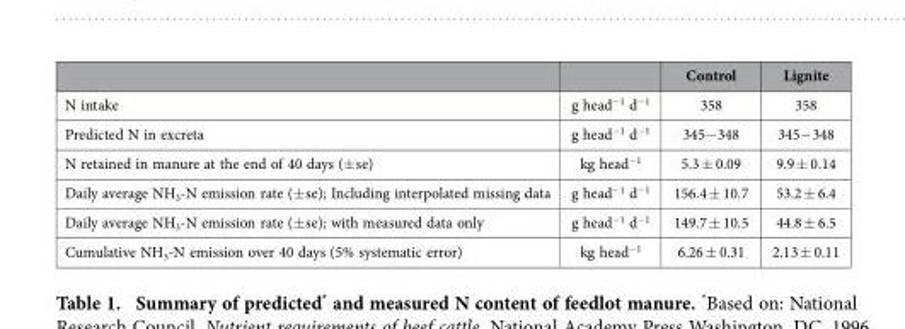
<table><thead><tr><td></td><td></td><td>Control</td><td>Lignite</td></tr></thead><tbody><tr><td>N intake</td><td>g head<sup>−1</sup> d<sup>−1</sup></td><td>358</td><td>358</td></tr><tr><td>Predicted N in excreta</td><td>g head<sup>−1</sup> d<sup>−1</sup></td><td>345− 348</td><td>345− 348</td></tr><tr><td>N retained in manure at the end of 40 days (± se)</td><td>kg head<sup>−1</sup></td><td>5.3 ± 0.09</td><td>9.9 ± 0.14</td></tr><tr><td>Daily average NH<sub>3</sub>-N emission rate (± se); Including interpolated missing data</td><td>g head<sup>−1</sup> d<sup>−1</sup></td><td>156.4 ± 10.7</td><td>53.2 ± 6.4</td></tr><tr><td>Daily average NH<sub>3</sub>-N emission rate (± se); with measured data only</td><td>g head<sup>−1</sup> d<sup>−1</sup></td><td>149.7 ± 10.5</td><td>44.8 ± 6.5</td></tr><tr><td>Cumulative NH<sub>3</sub>-N emission over 40 days (5% systematic error)</td><td>kg head<sup>−1</sup></td><td>6.26 ± 0.31</td><td>2.13 ± 0.11</td></tr></tbody></table>